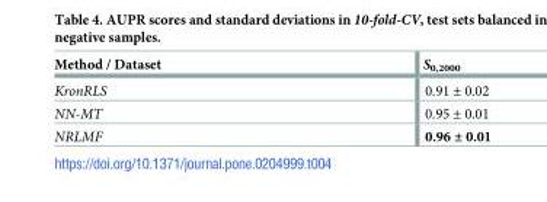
<table><thead><tr><td>Method / Dataset</td><td>S<sub>0,2000</sub></td></tr></thead><tbody><tr><td>KronRLS</td><td>0.91 ± 0.02</td></tr><tr><td>NN-MT</td><td>0.95 ± 0.01</td></tr><tr><td>NRLMF</td><td>0.96 ± 0.01</td></tr></tbody></table>